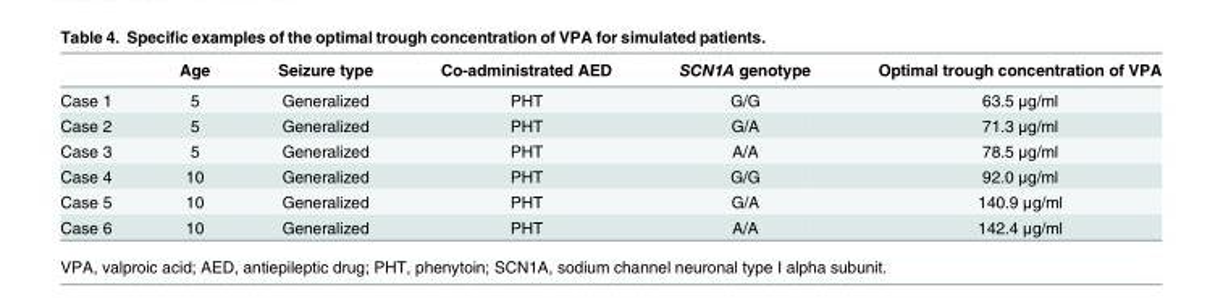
<table><thead><tr><td></td><td>Age</td><td>Seizure type</td><td>Co-administrated AED</td><td>SCN1A genotype</td><td>Optimal trough concentration of VPA</td></tr></thead><tbody><tr><td>Case 1</td><td>5</td><td>Generalized</td><td>PHT</td><td>G/G</td><td>63.5 μg/ml</td></tr><tr><td>Case 2</td><td>5</td><td>Generalized</td><td>PHT</td><td>G/A</td><td>71.3 μg/ml</td></tr><tr><td>Case 3</td><td>5</td><td>Generalized</td><td>PHT</td><td>A/A</td><td>78.5 μg/ml</td></tr><tr><td>Case 4</td><td>10</td><td>Generalized</td><td>PHT</td><td>G/G</td><td>92.0 μg/ml</td></tr><tr><td>Case 5</td><td>10</td><td>Generalized</td><td>PHT</td><td>G/A</td><td>140.9 μg/ml</td></tr><tr><td>Case 6</td><td>10</td><td>Generalized</td><td>PHT</td><td>A/A</td><td>142.4 μg/ml</td></tr></tbody></table>